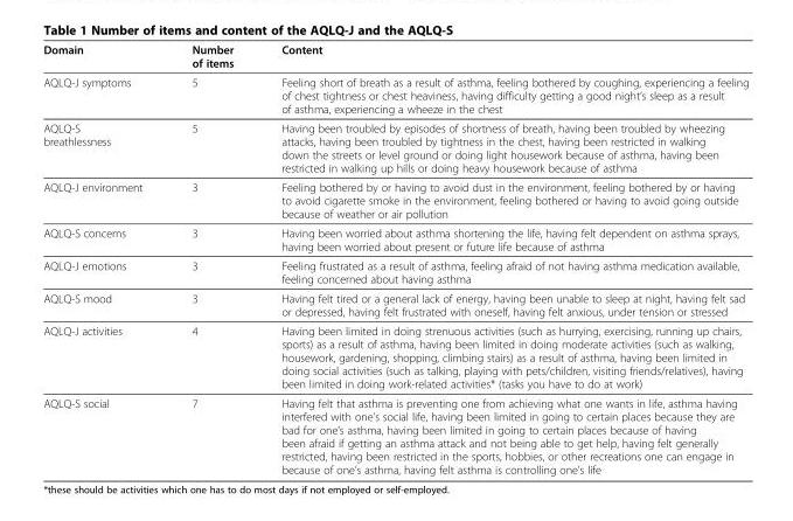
<table><thead><tr><td>Domain</td><td>Number of items</td><td>Content</td></tr></thead><tbody><tr><td>AQLQ-J symptoms</td><td>5</td><td>Feeling short of breath as a result of asthma, feeling bothered by coughing, experiencing a feeling of chest tightness or chest heaviness, having difficulty getting a good night’s sleep as a result of asthma, experiencing a wheeze in the chest</td></tr><tr><td>AQLQ-S breathlessness</td><td>5</td><td>Having been troubled by episodes of shortness of breath, having been troubled by wheezing attacks, having been troubled by tightness in the chest, having been restricted in walking down the streets or level ground or doing light housework because of asthma, having been restricted in walking up hills or doing heavy housework because of asthma</td></tr><tr><td>AQLQ-J environment</td><td>3</td><td>Feeling bothered by or having to avoid dust in the environment, feeling bothered by or having to avoid cigarette smoke in the environment, feeling bothered or having to avoid going outside because of weather or air pollution</td></tr><tr><td>AQLQ-S concerns</td><td>3</td><td>Having been worried about asthma shortening the life, having felt dependent on asthma sprays, having been worried about present or future life because of asthma</td></tr><tr><td>AQLQ-J emotions</td><td>3</td><td>Feeling frustrated as a result of asthma, feeling afraid of not having asthma medication available, feeling concerned about having asthma</td></tr><tr><td>AQLQ-S mood</td><td>3</td><td>Having felt tired or a general lack of energy, having been unable to sleep at night, having felt sad or depressed, having felt frustrated with oneself, having felt anxious, under tension or stressed</td></tr><tr><td>AQLQ-J activities</td><td>4</td><td>Having been limited in doing strenuous activities (such as hurrying, exercising, running up chairs, sports) as a result of asthma, having been limited in doing moderate activities (such as walking, housework, gardening, shopping, climbing stairs) as a result of asthma, having been limited in doing social activities (such as talking, playing with pets/children, visiting friends/relatives), having been limited in doing work-related activities* (tasks you have to do at work)</td></tr><tr><td>AQLQ-S social</td><td>7</td><td>Having felt that asthma is preventing one from achieving what one wants in life, asthma having interfered with one’s social life, having been limited in going to certain places because they are bad for one’s asthma, having been limited in going to certain places because of having been afraid if getting an asthma attack and not being able to get help, having felt generally restricted, having been restricted in the sports, hobbies, or other recreations one can engage in because of one’s asthma, having felt asthma is controlling one’s life</td></tr></tbody></table>